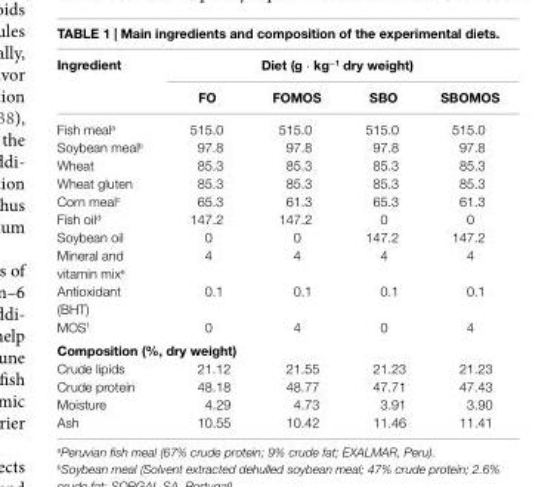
<table><thead><tr><td rowspan="2">ingredient</td><td colspan="4">Diet (g ⋅ kg<sup>−1</sup> dry weight)</td></tr><tr><td>FO</td><td>FOMOs</td><td>sBO</td><td>sBOMOs</td></tr></thead><tbody><tr><td>Fish meal<sup>a</sup></td><td>515.0</td><td>515.0</td><td>515.0</td><td>515.0</td></tr><tr><td>Soybean meal<sup>b</sup></td><td>97.8</td><td>97.8</td><td>97.8</td><td>97.8</td></tr><tr><td>Wheat</td><td>85.3</td><td>85.3</td><td>85.3</td><td>85.3</td></tr><tr><td>Wheat gluten</td><td>85.3</td><td>85.3</td><td>85.3</td><td>85.3</td></tr><tr><td>Corn meal<sup>c</sup></td><td>65.3</td><td>61.3</td><td>65.3</td><td>61.3</td></tr><tr><td>Fish oil<sup>d</sup></td><td>147.2</td><td>147.2</td><td>0</td><td>0</td></tr><tr><td>Soybean oil</td><td>0</td><td>0</td><td>147.2</td><td>147.2</td></tr><tr><td>Mineral and vitamin mix<sup>e</sup></td><td>4</td><td>4</td><td>4</td><td>4</td></tr><tr><td>Antioxidant (BHT)</td><td>0.1</td><td>0.1</td><td>0.1</td><td>0.1</td></tr><tr><td>MOS<sup>f</sup></td><td>0</td><td>4</td><td>0</td><td>4</td></tr><tr><td colspan="5">composition (%, dry weight)</td></tr><tr><td>Crude lipids</td><td>21.12</td><td>21.55</td><td>21.23</td><td>21.23</td></tr><tr><td>Crude protein</td><td>48.18</td><td>48.77</td><td>47.71</td><td>47.43</td></tr><tr><td>Moisture</td><td>4.29</td><td>4.73</td><td>3.91</td><td>3.90</td></tr><tr><td>Ash</td><td>10.55</td><td>10.42</td><td>11.46</td><td>11.41</td></tr></tbody></table>